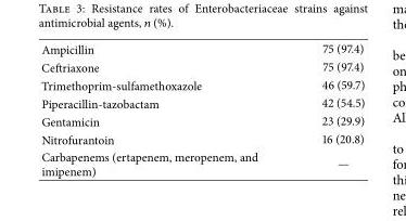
<table><tbody><tr><td>Ampicillin</td><td>75 (97.4)</td></tr><tr><td>Ceftriaxone</td><td>75 (97.4)</td></tr><tr><td>Trimethoprim-sulfamethoxazole</td><td>46 (59.7)</td></tr><tr><td>Piperacillin-tazobactam</td><td>42 (54.5)</td></tr><tr><td>Gentamicin</td><td>23 (29.9)</td></tr><tr><td>Nitrofurantoin</td><td>16 (20.8)</td></tr><tr><td>Carbapenems (ertapenem, meropenem, and imipenem)</td><td>—</td></tr></tbody></table>